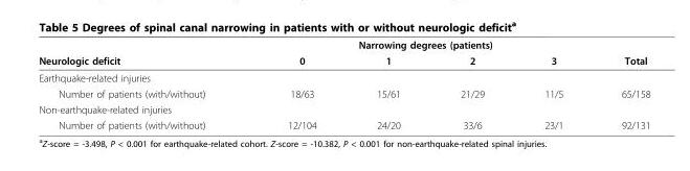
<table><thead><tr><td rowspan="2">Neurologic deficit</td><td colspan="4">Narrowing degrees (patients)</td><td rowspan="2">Total</td></tr><tr><td>0</td><td>1</td><td>2</td><td>3</td></tr></thead><tbody><tr><td colspan="6">Earthquake-related injuries</td></tr><tr><td>Number of patients (with/without)</td><td>18/63</td><td>15/61</td><td>21/29</td><td>11/5</td><td>65/158</td></tr><tr><td colspan="6">Non-earthquake-related injuries</td></tr><tr><td>Number of patients (with/without)</td><td>12/104</td><td>24/20</td><td>33/6</td><td>23/1</td><td>92/131</td></tr></tbody></table>